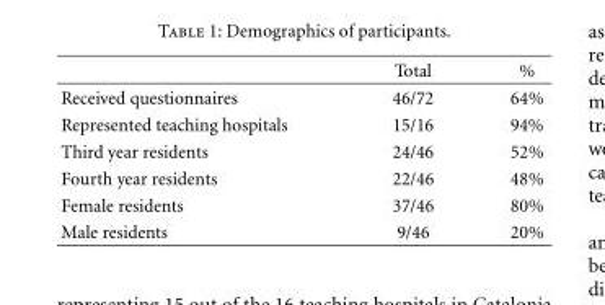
<table><thead><tr><td></td><td>Total</td><td>%</td></tr></thead><tbody><tr><td>Received questionnaires</td><td>46/72</td><td>64%</td></tr><tr><td>Represented teaching hospitals</td><td>15/16</td><td>94%</td></tr><tr><td>Third year residents</td><td>24/46</td><td>52%</td></tr><tr><td>Fourth year residents</td><td>22/46</td><td>48%</td></tr><tr><td>Female residents</td><td>37/46</td><td>80%</td></tr><tr><td>Male residents</td><td>9/46</td><td>20%</td></tr></tbody></table>